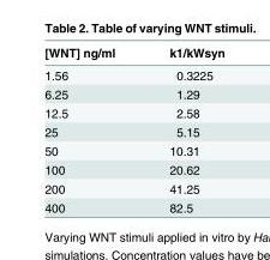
<table><thead><tr><td>[WNT] ng/ml</td><td>k1/kWsyn</td></tr></thead><tbody><tr><td>1.56</td><td>0.3225</td></tr><tr><td>6.25</td><td>1.29</td></tr><tr><td>12.5</td><td>2.58</td></tr><tr><td>25</td><td>5.15</td></tr><tr><td>50</td><td>10.31</td></tr><tr><td>100</td><td>20.62</td></tr><tr><td>200</td><td>41.25</td></tr><tr><td>400</td><td>82.5</td></tr></tbody></table>